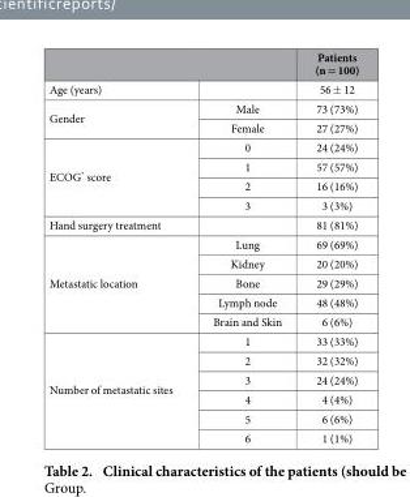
<table><thead><tr><td></td><td></td><td>Patients (n = 100)</td></tr></thead><tbody><tr><td>Age (years)</td><td></td><td>56 ± 12</td></tr><tr><td rowspan="2">Gender</td><td>Male</td><td>73 (73%)</td></tr><tr><td>Female</td><td>27 (27%)</td></tr><tr><td rowspan="4">ECOG* score</td><td>0</td><td>24 (24%)</td></tr><tr><td>1</td><td>57 (57%)</td></tr><tr><td>2</td><td>16 (16%)</td></tr><tr><td>3</td><td>3 (3%)</td></tr><tr><td>Hand surgery treatment</td><td></td><td>81 (81%)</td></tr><tr><td rowspan="5">Metastatic location</td><td>Lung</td><td>69 (69%)</td></tr><tr><td>Kidney</td><td>20 (20%)</td></tr><tr><td>Bone</td><td>29 (29%)</td></tr><tr><td>Lymph node</td><td>48 (48%)</td></tr><tr><td>Brain and Skin</td><td>6 (6%)</td></tr><tr><td rowspan="6">Number of metastatic sites</td><td>1</td><td>33 (33%)</td></tr><tr><td>2</td><td>32 (32%)</td></tr><tr><td>3</td><td>24 (24%)</td></tr><tr><td>4</td><td>4 (4%)</td></tr><tr><td>5</td><td>6 (6%)</td></tr><tr><td>6</td><td>1 (1%)</td></tr></tbody></table>